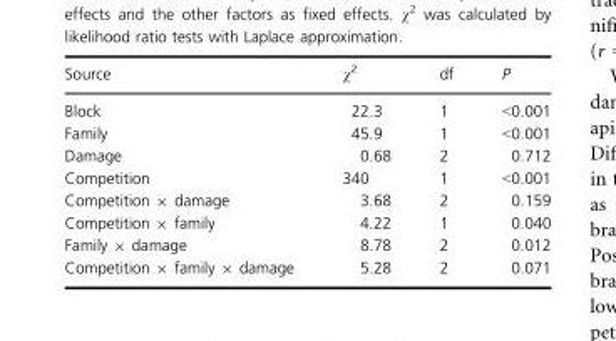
<table><thead><tr><td>Source</td><td>χ<sup>2</sup></td><td>df</td><td>P</td></tr></thead><tbody><tr><td>Block</td><td>22.3</td><td>1</td><td>&lt;0.001</td></tr><tr><td>Family</td><td>45.9</td><td>1</td><td>&lt;0.001</td></tr><tr><td>Damage</td><td>0.68</td><td>2</td><td>0.712</td></tr><tr><td>Competition</td><td>340</td><td>1</td><td>&lt;0.001</td></tr><tr><td>Competition × damage</td><td>3.68</td><td>2</td><td>0.159</td></tr><tr><td>Competition × family</td><td>4.22</td><td>1</td><td>0.040</td></tr><tr><td>Family × damage</td><td>8.78</td><td>2</td><td>0.012</td></tr><tr><td>Competition × family × damage</td><td>5.28</td><td>2</td><td>0.071</td></tr></tbody></table>